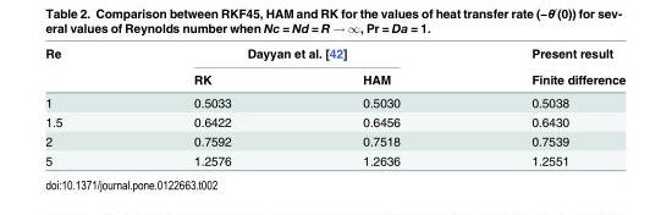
<table><thead><tr><td rowspan="2">Re</td><td colspan="2">Dayyan et al. [42]</td><td rowspan="2">Present result Finite difference</td></tr><tr><td>RK</td><td>HAM</td></tr></thead><tbody><tr><td>1</td><td>0.5033</td><td>0.5030</td><td>0.5038</td></tr><tr><td>1.5</td><td>0.6422</td><td>0.6456</td><td>0.6430</td></tr><tr><td>2</td><td>0.7592</td><td>0.7518</td><td>0.7539</td></tr><tr><td>5</td><td>1.2576</td><td>1.2636</td><td>1.2551</td></tr></tbody></table>